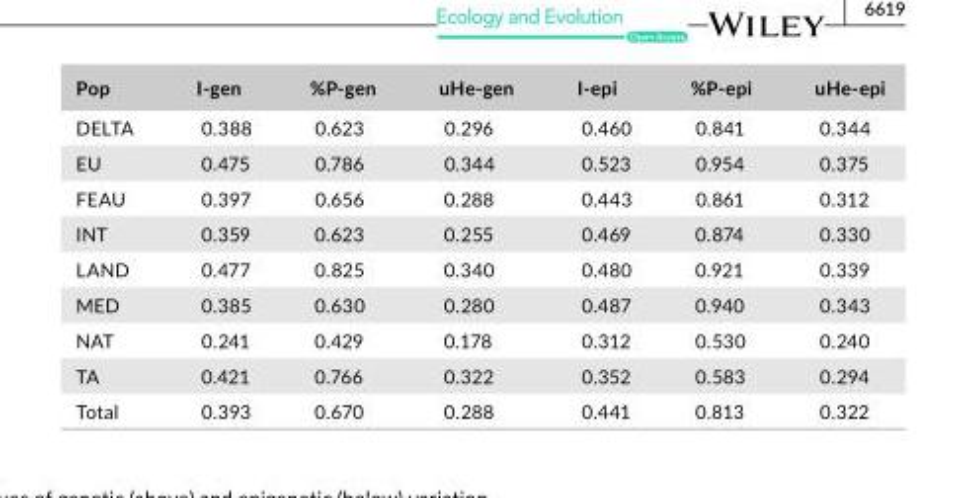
<table><thead><tr><td>Pop</td><td>I- gen</td><td>%P- gen</td><td>uHe- gen</td><td>I- epi</td><td>%P- epi</td><td>uHe- epi</td></tr></thead><tbody><tr><td>DELTA</td><td>0.388</td><td>0.623</td><td>0.296</td><td>0.460</td><td>0.841</td><td>0.344</td></tr><tr><td>EU</td><td>0.475</td><td>0.786</td><td>0.344</td><td>0.523</td><td>0.954</td><td>0.375</td></tr><tr><td>FEAU</td><td>0.397</td><td>0.656</td><td>0.288</td><td>0.443</td><td>0.861</td><td>0.312</td></tr><tr><td>INT</td><td>0.359</td><td>0.623</td><td>0.255</td><td>0.469</td><td>0.874</td><td>0.330</td></tr><tr><td>LAND</td><td>0.477</td><td>0.825</td><td>0.340</td><td>0.480</td><td>0.921</td><td>0.339</td></tr><tr><td>MED</td><td>0.385</td><td>0.630</td><td>0.280</td><td>0.487</td><td>0.940</td><td>0.343</td></tr><tr><td>NAT</td><td>0.241</td><td>0.429</td><td>0.178</td><td>0.312</td><td>0.530</td><td>0.240</td></tr><tr><td>TA</td><td>0.421</td><td>0.766</td><td>0.322</td><td>0.352</td><td>0.583</td><td>0.294</td></tr><tr><td>Total</td><td>0.393</td><td>0.670</td><td>0.288</td><td>0.441</td><td>0.813</td><td>0.322</td></tr></tbody></table>